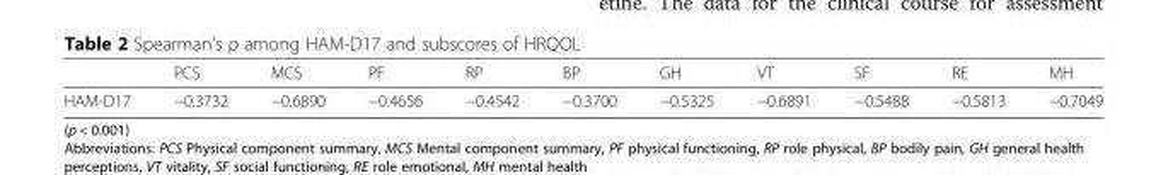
<table><thead><tr><td></td><td>PCS</td><td>MCS</td><td>PF</td><td>RP</td><td>BP</td><td>GH</td><td>VT</td><td>SF</td><td>RE</td><td>MH</td></tr></thead><tbody><tr><td>HAM-D17</td><td>−0.3732</td><td>−0.6890</td><td>−0.4656</td><td>−0.4542</td><td>−0.3700</td><td>−0.5325</td><td>−0.6891</td><td>−0.5488</td><td>−0.5813</td><td>−0.7049</td></tr></tbody></table>